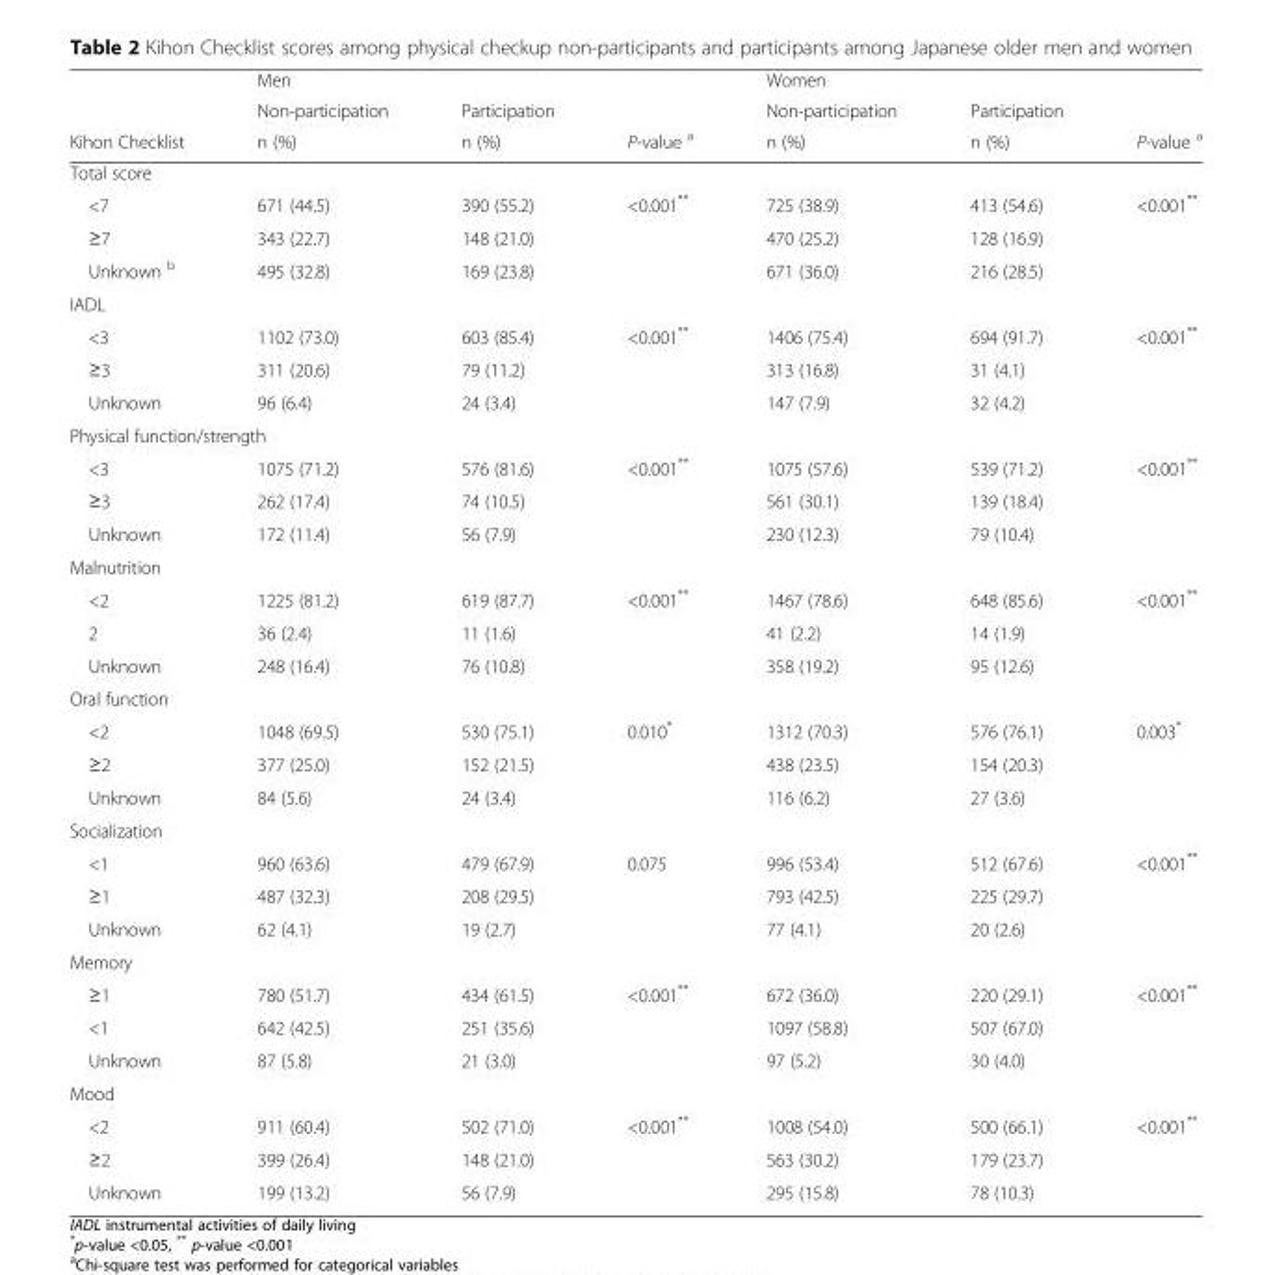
<table><thead><tr><td rowspan="3">Kihon Checklist</td><td rowspan="3">Men Non-participation n (%)</td><td rowspan="3">Participation n (%)</td><td rowspan="3">P-value <sup>a</sup></td><td rowspan="3">Women Non-participation n (%)</td><td rowspan="3">Participation n (%)</td><td rowspan="3">P-value <sup>a</sup></td></tr><tr></tr><tr></tr></thead><tbody><tr><td colspan="7">Total score</td></tr><tr><td>&lt;7</td><td>671 (44.5)</td><td>390 (55.2)</td><td rowspan="3">&lt;0.001**</td><td>725 (38.9)</td><td>413 (54.6)</td><td rowspan="3">&lt;0.001**</td></tr><tr><td>≥7</td><td>343 (22.7)</td><td>148 (21.0)</td><td>470 (25.2)</td><td>128 (16.9)</td></tr><tr><td>Unknown <sup>b</sup></td><td>495 (32.8)</td><td>169 (23.8)</td><td>671 (36.0)</td><td>216 (28.5)</td></tr><tr><td colspan="7">IADL</td></tr><tr><td>&lt;3</td><td>1102 (73.0)</td><td>603 (85.4)</td><td rowspan="3">&lt;0.001**</td><td>1406 (75.4)</td><td>694 (91.7)</td><td rowspan="3">&lt;0.001**</td></tr><tr><td>≥3</td><td>311 (20.6)</td><td>79 (11.2)</td><td>313 (16.8)</td><td>31 (4.1)</td></tr><tr><td>Unknown</td><td>96 (6.4)</td><td>24 (3.4)</td><td>147 (7.9)</td><td>32 (4.2)</td></tr><tr><td colspan="7">Physical function/strength</td></tr><tr><td>&lt;3</td><td>1075 (71.2)</td><td>576 (81.6)</td><td rowspan="3">&lt;0.001**</td><td>1075 (57.6)</td><td>539 (71.2)</td><td rowspan="3">&lt;0.001**</td></tr><tr><td>≥3</td><td>262 (17.4)</td><td>74 (10.5)</td><td>561 (30.1)</td><td>139 (18.4)</td></tr><tr><td>Unknown</td><td>172 (11.4)</td><td>56 (7.9)</td><td>230 (12.3)</td><td>79 (10.4)</td></tr><tr><td colspan="7">Malnutrition</td></tr><tr><td>&lt;2</td><td>1225 (81.2)</td><td>619 (87.7)</td><td rowspan="3">&lt;0.001**</td><td>1467 (78.6)</td><td>648 (85.6)</td><td rowspan="3">&lt;0.001**</td></tr><tr><td>2</td><td>36 (2.4)</td><td>11 (1.6)</td><td>41 (2.2)</td><td>14 (1.9)</td></tr><tr><td>Unknown</td><td>248 (16.4)</td><td>76 (10.8)</td><td>358 (19.2)</td><td>95 (12.6)</td></tr><tr><td colspan="7">Oral function</td></tr><tr><td>&lt;2</td><td>1048 (69.5)</td><td>530 (75.1)</td><td rowspan="3">0.010*</td><td>1312 (70.3)</td><td>576 (76.1)</td><td rowspan="3">0.003*</td></tr><tr><td>≥2</td><td>377 (25.0)</td><td>152 (21.5)</td><td>438 (23.5)</td><td>154 (20.3)</td></tr><tr><td>Unknown</td><td>84 (5.6)</td><td>24 (3.4)</td><td>116 (6.2)</td><td>27 (3.6)</td></tr><tr><td colspan="7">Socialization</td></tr><tr><td>&lt;1</td><td>960 (63.6)</td><td>479 (67.9)</td><td rowspan="3">0.075</td><td>996 (53.4)</td><td>512 (67.6)</td><td rowspan="3">&lt;0.001**</td></tr><tr><td>≥1</td><td>487 (32.3)</td><td>208 (29.5)</td><td>793 (42.5)</td><td>225 (29.7)</td></tr><tr><td>Unknown</td><td>62 (4.1)</td><td>19 (2.7)</td><td>77 (4.1)</td><td>20 (2.6)</td></tr><tr><td colspan="7">Memory</td></tr><tr><td>≥1</td><td>780 (51.7)</td><td>434 (61.5)</td><td rowspan="3">&lt;0.001**</td><td>672 (36.0)</td><td>220 (29.1)</td><td rowspan="3">&lt;0.001**</td></tr><tr><td>&lt;1</td><td>642 (42.5)</td><td>251 (35.6)</td><td>1097 (58.8)</td><td>507 (67.0)</td></tr><tr><td>Unknown</td><td>87 (5.8)</td><td>21 (3.0)</td><td>97 (5.2)</td><td>30 (4.0)</td></tr><tr><td colspan="7">Mood</td></tr><tr><td>&lt;2</td><td>911 (60.4)</td><td>502 (71.0)</td><td rowspan="3">&lt;0.001**</td><td>1008 (54.0)</td><td>500 (66.1)</td><td rowspan="3">&lt;0.001**</td></tr><tr><td>≥2</td><td>399 (26.4)</td><td>148 (21.0)</td><td>563 (30.2)</td><td>179 (23.7)</td></tr><tr><td>Unknown</td><td>199 (13.2)</td><td>56 (7.9)</td><td>295 (15.8)</td><td>78 (10.3)</td></tr></tbody></table>